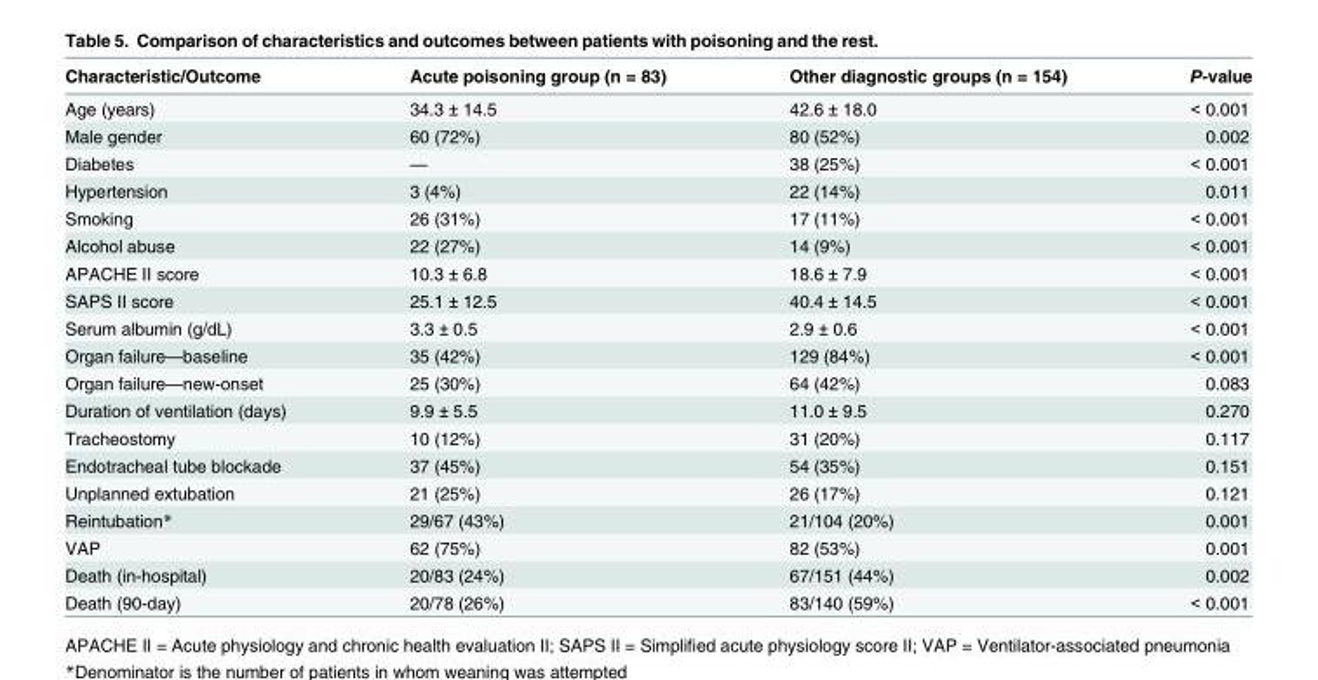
<table><thead><tr><td>Characteristic/Outcome</td><td>Acute poisoning group (n = 83)</td><td>Other diagnostic groups (n = 154)</td><td>P-value</td></tr></thead><tbody><tr><td>Age (years)</td><td>34.3 ± 14.5</td><td>42.6 ± 18.0</td><td>&lt; 0.001</td></tr><tr><td>Male gender</td><td>60 (72%)</td><td>80 (52%)</td><td>0.002</td></tr><tr><td>Diabetes</td><td>—</td><td>38 (25%)</td><td>&lt; 0.001</td></tr><tr><td>Hypertension</td><td>3 (4%)</td><td>22 (14%)</td><td>0.011</td></tr><tr><td>Smoking</td><td>26 (31%)</td><td>17 (11%)</td><td>&lt; 0.001</td></tr><tr><td>Alcohol abuse</td><td>22 (27%)</td><td>14 (9%)</td><td>&lt; 0.001</td></tr><tr><td>APACHE II score</td><td>10.3 ± 6.8</td><td>18.6 ± 7.9</td><td>&lt; 0.001</td></tr><tr><td>SAPS II score</td><td>25.1 ± 12.5</td><td>40.4 ± 14.5</td><td>&lt; 0.001</td></tr><tr><td>Serum albumin (g/dL)</td><td>3.3 ± 0.5</td><td>2.9 ± 0.6</td><td>&lt; 0.001</td></tr><tr><td>Organ failure—baseline</td><td>35 (42%)</td><td>129 (84%)</td><td>&lt; 0.001</td></tr><tr><td>Organ failure—new-onset</td><td>25 (30%)</td><td>64 (42%)</td><td>0.083</td></tr><tr><td>Duration of ventilation (days)</td><td>9.9 ± 5.5</td><td>11.0 ± 9.5</td><td>0.270</td></tr><tr><td>Tracheostomy</td><td>10 (12%)</td><td>31 (20%)</td><td>0.117</td></tr><tr><td>Endotracheal tube blockade</td><td>37 (45%)</td><td>54 (35%)</td><td>0.151</td></tr><tr><td>Unplanned extubation</td><td>21 (25%)</td><td>26 (17%)</td><td>0.121</td></tr><tr><td>Reintubation*</td><td>29/67 (43%)</td><td>21/104 (20%)</td><td>0.001</td></tr><tr><td>VAP</td><td>62 (75%)</td><td>82 (53%)</td><td>0.001</td></tr><tr><td>Death (in-hospital)</td><td>20/83 (24%)</td><td>67/151 (44%)</td><td>0.002</td></tr><tr><td>Death (90-day)</td><td>20/78 (26%)</td><td>83/140 (59%)</td><td>&lt; 0.001</td></tr></tbody></table>